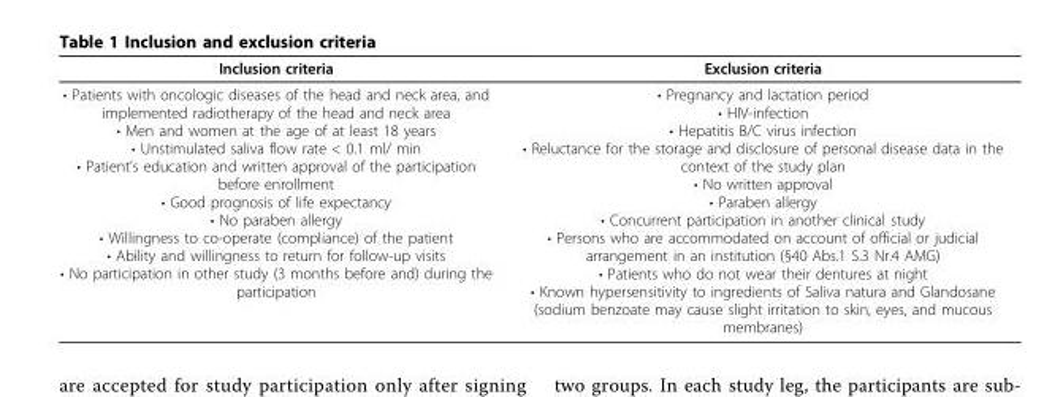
<table><thead><tr><td>Inclusion criteria</td><td>Exclusion criteria</td></tr></thead><tbody><tr><td>• Patients with oncologic diseases of the head and neck area, and implemented radiotherapy of the head and neck area • Men and women at the age of at least 18 years • Unstimulated saliva flow rate &lt; 0.1 ml/ min • Patient’s education and written approval of the participation before enrollment • Good prognosis of life expectancy • No paraben allergy • Willingness to co-operate (compliance) of the patient • Ability and willingness to return for follow-up visits • No participation in other study (3 months before and) during the participation</td><td>• Pregnancy and lactation period • HIV-infection • Hepatitis B/C virus infection • Reluctance for the storage and disclosure of personal disease data in the context of the study plan • No written approval • Paraben allergy • Concurrent participation in another clinical study • Persons who are accommodated on account of official or judicial arrangement in an institution (§40 Abs.1 S.3 Nr.4 AMG) • Patients who do not wear their dentures at night • Known hypersensitivity to ingredients of Saliva natura and Glandosane (sodium benzoate may cause slight irritation to skin, eyes, and mucous membranes)</td></tr></tbody></table>